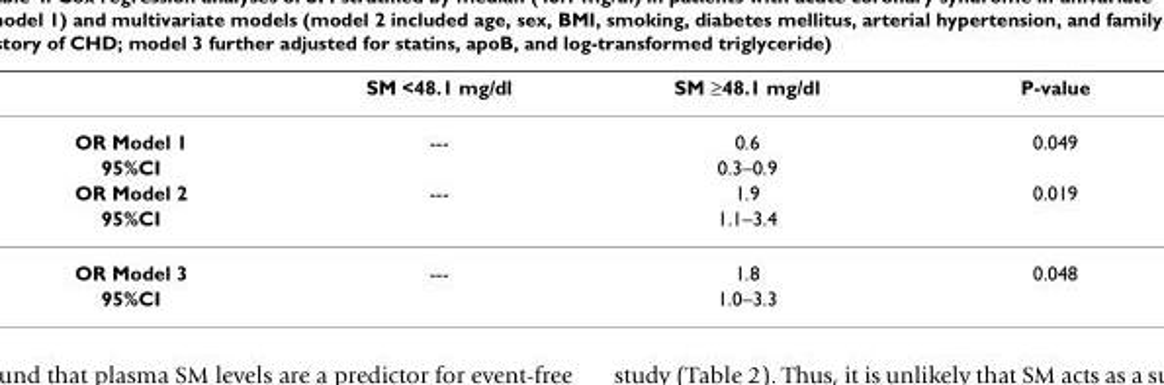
<table><thead><tr><td></td><td>SM &lt;48.1 mg/dl</td><td>SM ≥48.1 mg/dl</td><td>P-value</td></tr></thead><tbody><tr><td>OR Model 1</td><td>---</td><td>0.6</td><td>0.049</td></tr><tr><td>95%CI</td><td></td><td>0.3–0.9</td><td></td></tr><tr><td>OR Model 2</td><td>---</td><td>1.9</td><td>0.019</td></tr><tr><td>95%CI</td><td></td><td>1.1–3.4</td><td></td></tr><tr><td>OR Model 3</td><td>---</td><td>1.8</td><td>0.048</td></tr><tr><td>95%CI</td><td></td><td>1.0–3.3</td><td></td></tr></tbody></table>